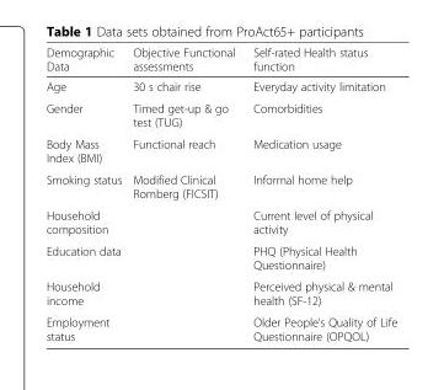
<table><thead><tr><td>Demographic Data</td><td>Objective Functional assessments</td><td>Self-rated Health status function</td></tr></thead><tbody><tr><td>Age</td><td>30 s chair rise</td><td>Everyday activity limitation</td></tr><tr><td>Gender</td><td>Timed get-up &amp; go test (TUG)</td><td>Comorbidities</td></tr><tr><td>Body Mass Index (BMI)</td><td>Functional reach</td><td>Medication usage</td></tr><tr><td>Smoking status</td><td>Modified Clinical Romberg (FICSIT)</td><td>Informal home help</td></tr><tr><td>Household composition</td><td></td><td>Current level of physical activity</td></tr><tr><td>Education data</td><td></td><td>PHQ (Physical Health Questionnaire)</td></tr><tr><td>Household income</td><td></td><td>Perceived physical &amp; mental health (SF-12)</td></tr><tr><td>Employment status</td><td></td><td>Older People’s Quality of Life Questionnaire (OPQOL)</td></tr></tbody></table>